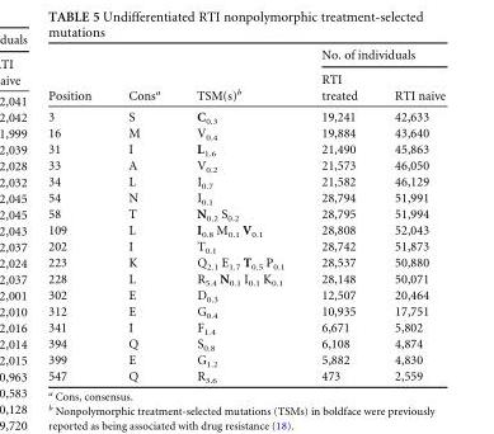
<table><thead><tr><td rowspan="2">Position</td><td rowspan="2">Cons<sup>a</sup></td><td rowspan="2">TSM(s)<sup>b</sup></td><td colspan="2">No. of individuals</td></tr><tr><td>RTI treated</td><td>RTI naive</td></tr></thead><tbody><tr><td>3</td><td>S</td><td>C<sub>0.3</sub></td><td>19,241</td><td>42,633</td></tr><tr><td>16</td><td>M</td><td>V<sub>0.4</sub></td><td>19,884</td><td>43,640</td></tr><tr><td>31</td><td>I</td><td>L<sub>1.6</sub></td><td>21,490</td><td>45,863</td></tr><tr><td>33</td><td>A</td><td>V<sub>0.2</sub></td><td>21,573</td><td>46,050</td></tr><tr><td>34</td><td>L</td><td>I<sub>0.7</sub></td><td>21,582</td><td>46,129</td></tr><tr><td>54</td><td>N</td><td>I<sub>0.1</sub></td><td>28,794</td><td>51,991</td></tr><tr><td>58</td><td>T</td><td>N<sub>0.2</sub> S<sub>0.2</sub></td><td>28,795</td><td>51,994</td></tr><tr><td>109</td><td>L</td><td>I<sub>0.8</sub> M<sub>0.1</sub> V<sub>0.1</sub></td><td>28,808</td><td>52,043</td></tr><tr><td>202</td><td>I</td><td>T<sub>0.1</sub></td><td>28,742</td><td>51,873</td></tr><tr><td>223</td><td>K</td><td>Q<sub>2.1</sub> E<sub>1.7</sub> T<sub>0.5</sub> P<sub>0.1</sub></td><td>28,537</td><td>50,880</td></tr><tr><td>228</td><td>L</td><td>R<sub>5.4</sub> N<sub>0.1</sub> I<sub>0.1</sub> K<sub>0.1</sub></td><td>28,148</td><td>50,071</td></tr><tr><td>302</td><td>E</td><td>D<sub>0.3</sub></td><td>12,507</td><td>20,464</td></tr><tr><td>312</td><td>E</td><td>G<sub>0.4</sub></td><td>10,935</td><td>17,751</td></tr><tr><td>341</td><td>I</td><td>F<sub>1.4</sub></td><td>6,671</td><td>5,802</td></tr><tr><td>394</td><td>Q</td><td>S<sub>0.8</sub></td><td>6,108</td><td>4,874</td></tr><tr><td>399</td><td>E</td><td>G<sub>1.2</sub></td><td>5,882</td><td>4,830</td></tr><tr><td>547</td><td>Q</td><td>R<sub>3.6</sub></td><td>473</td><td>2,559</td></tr></tbody></table>